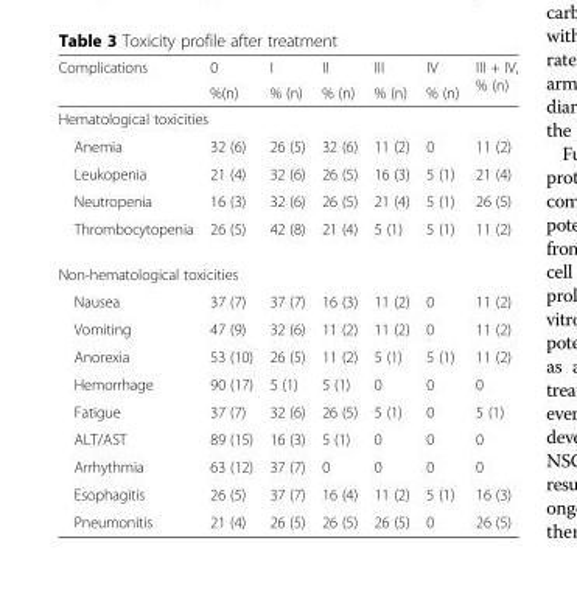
<table><thead><tr><td rowspan="2">Complications</td><td rowspan="2">0 %(n)</td><td rowspan="2">I % (n)</td><td rowspan="2">II % (n)</td><td rowspan="2">III % (n)</td><td rowspan="2">IV % (n)</td><td rowspan="2">III + IV, % (n)</td></tr><tr></tr></thead><tbody><tr><td colspan="7">Hematological toxicities</td></tr><tr><td>Anemia</td><td>32 (6)</td><td>26 (5)</td><td>32 (6)</td><td>11 (2)</td><td>0</td><td>11 (2)</td></tr><tr><td>Leukopenia</td><td>21 (4)</td><td>32 (6)</td><td>26 (5)</td><td>16 (3)</td><td>5 (1)</td><td>21 (4)</td></tr><tr><td>Neutropenia</td><td>16 (3)</td><td>32 (6)</td><td>26 (5)</td><td>21 (4)</td><td>5 (1)</td><td>26 (5)</td></tr><tr><td>Thrombocytopenia</td><td>26 (5)</td><td>42 (8)</td><td>21 (4)</td><td>5 (1)</td><td>5 (1)</td><td>11 (2)</td></tr><tr><td colspan="7">Non-hematological toxicities</td></tr><tr><td>Nausea</td><td>37 (7)</td><td>37 (7)</td><td>16 (3)</td><td>11 (2)</td><td>0</td><td>11 (2)</td></tr><tr><td>Vomiting</td><td>47 (9)</td><td>32 (6)</td><td>11 (2)</td><td>11 (2)</td><td>0</td><td>11 (2)</td></tr><tr><td>Anorexia</td><td>53 (10)</td><td>26 (5)</td><td>11 (2)</td><td>5 (1)</td><td>5 (1)</td><td>11 (2)</td></tr><tr><td>Hemorrhage</td><td>90 (17)</td><td>5 (1)</td><td>5 (1)</td><td>0</td><td>0</td><td>0</td></tr><tr><td>Fatigue</td><td>37 (7)</td><td>32 (6)</td><td>26 (5)</td><td>5 (1)</td><td>0</td><td>5 (1)</td></tr><tr><td>ALT/AST</td><td>89 (15)</td><td>16 (3)</td><td>5 (1)</td><td>0</td><td>0</td><td>0</td></tr><tr><td>Arrhythmia</td><td>63 (12)</td><td>37 (7)</td><td>0</td><td>0</td><td>0</td><td>0</td></tr><tr><td>Esophagitis</td><td>26 (5)</td><td>37 (7)</td><td>16 (4)</td><td>11 (2)</td><td>5 (1)</td><td>16 (3)</td></tr><tr><td>Pneumonitis</td><td>21 (4)</td><td>26 (5)</td><td>26 (5)</td><td>26 (5)</td><td>0</td><td>26 (5)</td></tr></tbody></table>